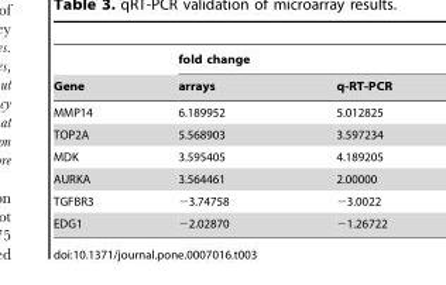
<table><thead><tr><td rowspan="2">Gene</td><td colspan="2">fold change</td></tr><tr><td>arrays</td><td>q-RT-PCR</td></tr></thead><tbody><tr><td>MMP14</td><td>6.189952</td><td>5.012825</td></tr><tr><td>TOP2A</td><td>5.568903</td><td>3.597234</td></tr><tr><td>MDK</td><td>3.595405</td><td>4.189205</td></tr><tr><td>AURKA</td><td>3.564461</td><td>2.00000</td></tr><tr><td>TGFBR3</td><td>−3.74758</td><td>−3.0022</td></tr><tr><td>EDG1</td><td>−2.02870</td><td>−1.26722</td></tr></tbody></table>